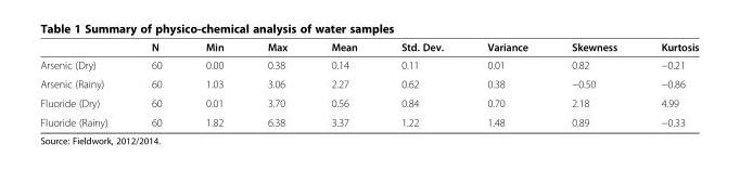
<table><thead><tr><td></td><td>N</td><td>Min</td><td>Max</td><td>Mean</td><td>Std. Dev.</td><td>Variance</td><td>Skewness</td><td>Kurtosis</td></tr></thead><tbody><tr><td>Arsenic (Dry)</td><td>60</td><td>0.00</td><td>0.38</td><td>0.14</td><td>0.11</td><td>0.01</td><td>0.82</td><td>−0.21</td></tr><tr><td>Arsenic (Rainy)</td><td>60</td><td>1.03</td><td>3.06</td><td>2.27</td><td>0.62</td><td>0.38</td><td>−0.50</td><td>−0.86</td></tr><tr><td>Fluoride (Dry)</td><td>60</td><td>0.01</td><td>3.70</td><td>0.56</td><td>0.84</td><td>0.70</td><td>2.18</td><td>4.99</td></tr><tr><td>Fluoride (Rainy)</td><td>60</td><td>1.82</td><td>6.38</td><td>3.37</td><td>1.22</td><td>1.48</td><td>0.89</td><td>−0.33</td></tr></tbody></table>